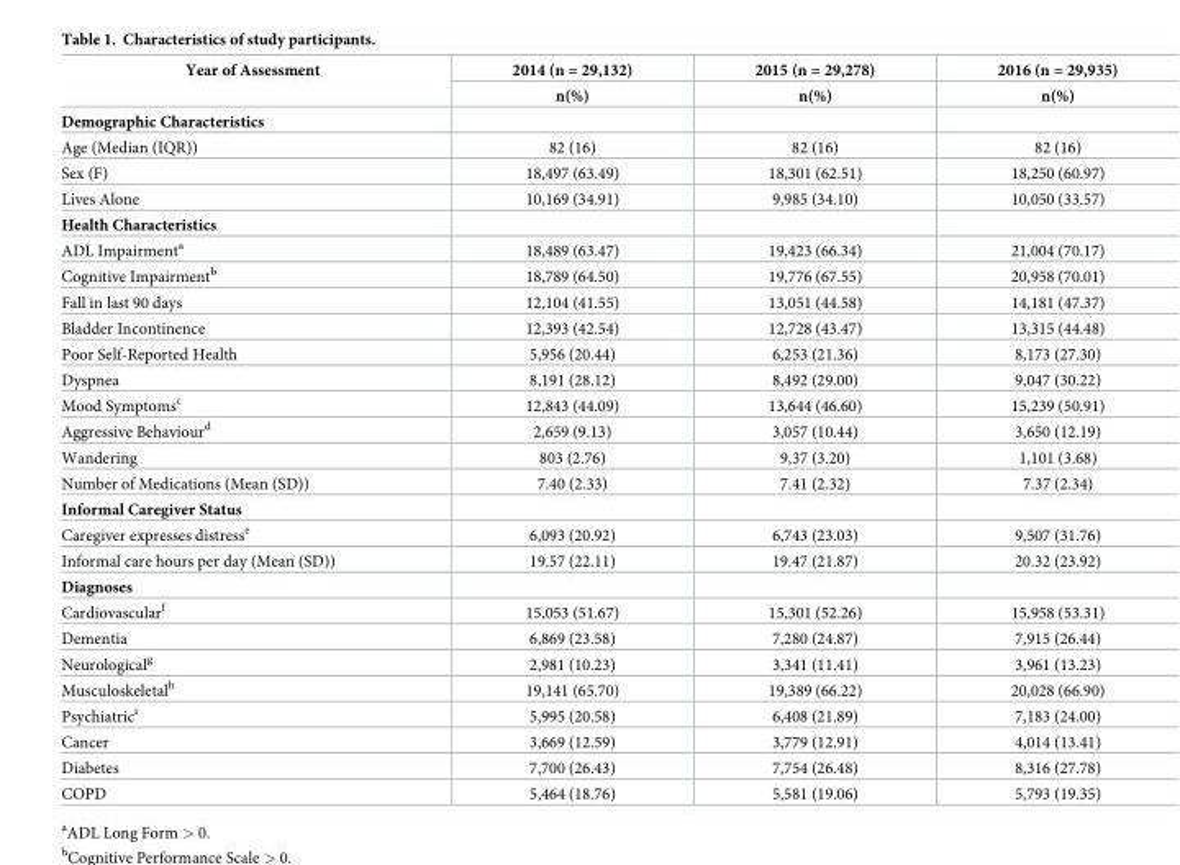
<table><thead><tr><td rowspan="2">Year of Assessment</td><td rowspan="2">2014 (n = 29,132) n(%)</td><td rowspan="2">2015 (n = 29,278) n(%)</td><td rowspan="2">2016 (n = 29,935) n(%)</td></tr><tr></tr></thead><tbody><tr><td colspan="4">Demographic Characteristics</td></tr><tr><td>Age (Median (IQR))</td><td>82 (16)</td><td>82 (16)</td><td>82 (16)</td></tr><tr><td>Sex (F)</td><td>18,497 (63.49)</td><td>18,301 (62.51)</td><td>18,250 (60.97)</td></tr><tr><td>Lives Alone</td><td>10,169 (34.91)</td><td>9,985 (34.10)</td><td>10,050 (33.57)</td></tr><tr><td colspan="4">Health Characteristics</td></tr><tr><td>ADL Impairment<sup>a</sup></td><td>18,489 (63.47)</td><td>19,423 (66.34)</td><td>21,004 (70.17)</td></tr><tr><td>Cognitive Impairment<sup>b</sup></td><td>18,789 (64.50)</td><td>19,776 (67.55)</td><td>20,958 (70.01)</td></tr><tr><td>Fall in last 90 days</td><td>12,104 (41.55)</td><td>13,051 (44.58)</td><td>14,181 (47.37)</td></tr><tr><td>Bladder Incontinence</td><td>12,393 (42.54)</td><td>12,728 (43.47)</td><td>13,315 (44.48)</td></tr><tr><td>Poor Self-Reported Health</td><td>5,956 (20.44)</td><td>6,253 (21.36)</td><td>8,173 (27.30)</td></tr><tr><td>Dyspnea</td><td>8,191 (28.12)</td><td>8,492 (29.00)</td><td>9,047 (30.22)</td></tr><tr><td>Mood Symptoms<sup>c</sup></td><td>12,843 (44.09)</td><td>13,644 (46.60)</td><td>15,239 (50.91)</td></tr><tr><td>Aggressive Behaviour<sup>d</sup></td><td>2,659 (9.13)</td><td>3,057 (10.44)</td><td>3,650 (12.19)</td></tr><tr><td>Wandering</td><td>803 (2.76)</td><td>9,37 (3.20)</td><td>1,101 (3.68)</td></tr><tr><td>Number of Medications (Mean (SD))</td><td>7.40 (2.33)</td><td>7.41 (2.32)</td><td>7.37 (2.34)</td></tr><tr><td colspan="4">Informal Caregiver Status</td></tr><tr><td>Caregiver expresses distress<sup>e</sup></td><td>6,093 (20.92)</td><td>6,743 (23.03)</td><td>9,507 (31.76)</td></tr><tr><td>Informal care hours per day (Mean (SD))</td><td>19.57 (22.11)</td><td>19.47 (21.87)</td><td>20.32 (23.92)</td></tr><tr><td colspan="4">Diagnoses</td></tr><tr><td>Cardiovascular<sup>f</sup></td><td>15,053 (51.67)</td><td>15,301 (52.26)</td><td>15,958 (53.31)</td></tr><tr><td>Dementia</td><td>6,869 (23.58)</td><td>7,280 (24.87)</td><td>7,915 (26.44)</td></tr><tr><td>Neurological<sup>g</sup></td><td>2,981 (10.23)</td><td>3,341 (11.41)</td><td>3,961 (13.23)</td></tr><tr><td>Musculoskeletal<sup>h</sup></td><td>19,141 (65.70)</td><td>19,389 (66.22)</td><td>20,028 (66.90)</td></tr><tr><td>Psychiatric<sup>i</sup></td><td>5,995 (20.58)</td><td>6,408 (21.89)</td><td>7,183 (24.00)</td></tr><tr><td>Cancer</td><td>3,669 (12.59)</td><td>3,779 (12.91)</td><td>4,014 (13.41)</td></tr><tr><td>Diabetes</td><td>7,700 (26.43)</td><td>7,754 (26.48)</td><td>8,316 (27.78)</td></tr><tr><td>COPD</td><td>5,464 (18.76)</td><td>5,581 (19.06)</td><td>5,793 (19.35)</td></tr></tbody></table>